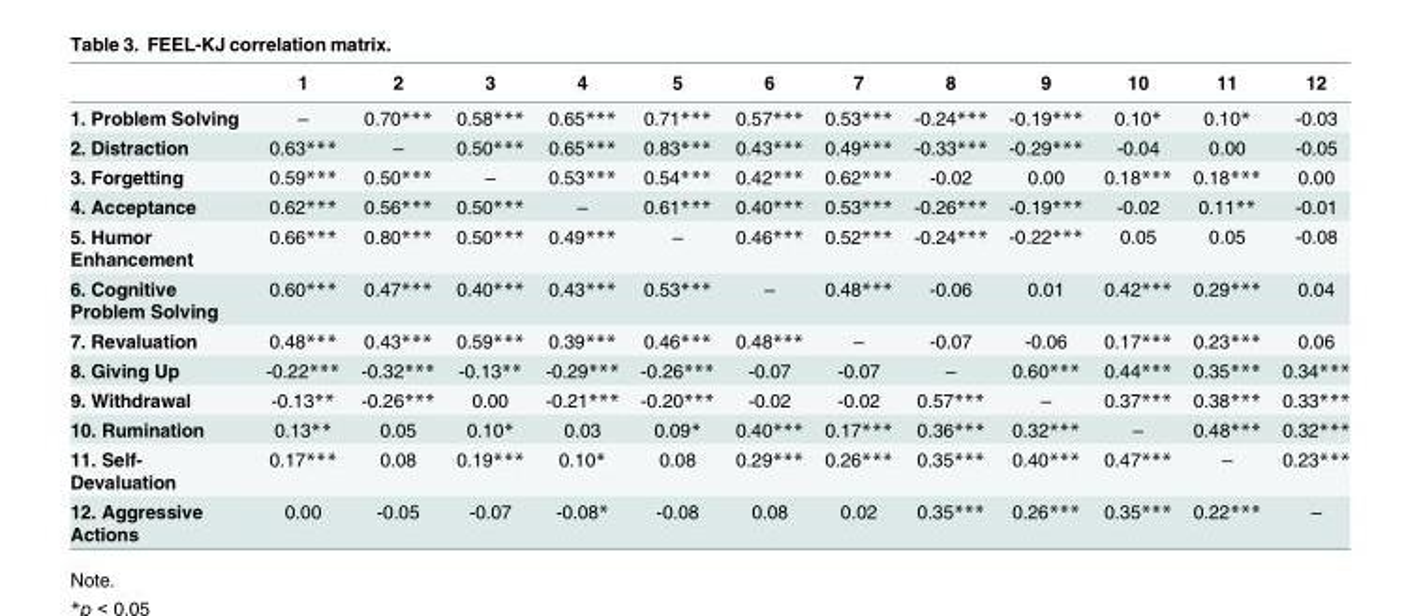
<table><thead><tr><td></td><td>1</td><td>2</td><td>3</td><td>4</td><td>5</td><td>6</td><td>7</td><td>8</td><td>9</td><td>10</td><td>11</td><td>12</td></tr></thead><tbody><tr><td>1. Problem Solving</td><td>–</td><td>0.70***</td><td>0.58***</td><td>0.65***</td><td>0.71***</td><td>0.57***</td><td>0.53***</td><td>-0.24***</td><td>-0.19***</td><td>0.10*</td><td>0.10*</td><td>-0.03</td></tr><tr><td>2. Distraction</td><td>0.63***</td><td>–</td><td>0.50***</td><td>0.65***</td><td>0.83***</td><td>0.43***</td><td>0.49***</td><td>-0.33***</td><td>-0.29***</td><td>-0.04</td><td>0.00</td><td>-0.05</td></tr><tr><td>3. Forgetting</td><td>0.59***</td><td>0.50***</td><td>–</td><td>0.53***</td><td>0.54***</td><td>0.42***</td><td>0.62***</td><td>-0.02</td><td>0.00</td><td>0.18***</td><td>0.18***</td><td>0.00</td></tr><tr><td>4. Acceptance</td><td>0.62***</td><td>0.56***</td><td>0.50***</td><td>–</td><td>0.61***</td><td>0.40***</td><td>0.53***</td><td>-0.26***</td><td>-0.19***</td><td>-0.02</td><td>0.11**</td><td>-0.01</td></tr><tr><td>5. Humor Enhancement</td><td>0.66***</td><td>0.80***</td><td>0.50***</td><td>0.49***</td><td>–</td><td>0.46***</td><td>0.52***</td><td>-0.24***</td><td>-0.22***</td><td>0.05</td><td>0.05</td><td>-0.08</td></tr><tr><td>6. Cognitive Problem Solving</td><td>0.60***</td><td>0.47***</td><td>0.40***</td><td>0.43***</td><td>0.53***</td><td>–</td><td>0.48***</td><td>-0.06</td><td>0.01</td><td>0.42***</td><td>0.29***</td><td>0.04</td></tr><tr><td>7. Revaluation</td><td>0.48***</td><td>0.43***</td><td>0.59***</td><td>0.39***</td><td>0.46***</td><td>0.48***</td><td>–</td><td>-0.07</td><td>-0.06</td><td>0.17***</td><td>0.23***</td><td>0.06</td></tr><tr><td>8. Giving Up</td><td>-0.22***</td><td>-0.32***</td><td>-0.13**</td><td>-0.29***</td><td>-0.26***</td><td>-0.07</td><td>-0.07</td><td>–</td><td>0.60***</td><td>0.44***</td><td>0.35***</td><td>0.34***</td></tr><tr><td>9. Withdrawal</td><td>-0.13**</td><td>-0.26***</td><td>0.00</td><td>-0.21***</td><td>-0.20***</td><td>-0.02</td><td>-0.02</td><td>0.57***</td><td>–</td><td>0.37***</td><td>0.38***</td><td>0.33***</td></tr><tr><td>10. Rumination</td><td>0.13**</td><td>0.05</td><td>0.10*</td><td>0.03</td><td>0.09*</td><td>0.40***</td><td>0.17***</td><td>0.36***</td><td>0.32***</td><td>–</td><td>0.48***</td><td>0.32***</td></tr><tr><td>11. Self- Devaluation</td><td>0.17***</td><td>0.08</td><td>0.19***</td><td>0.10*</td><td>0.08</td><td>0.29***</td><td>0.26***</td><td>0.35***</td><td>0.40***</td><td>0.47***</td><td>–</td><td>0.23***</td></tr><tr><td>12. Aggressive Actions</td><td>0.00</td><td>-0.05</td><td>-0.07</td><td>-0.08*</td><td>-0.08</td><td>0.08</td><td>0.02</td><td>0.35***</td><td>0.26***</td><td>0.35***</td><td>0.22***</td><td>–</td></tr></tbody></table>